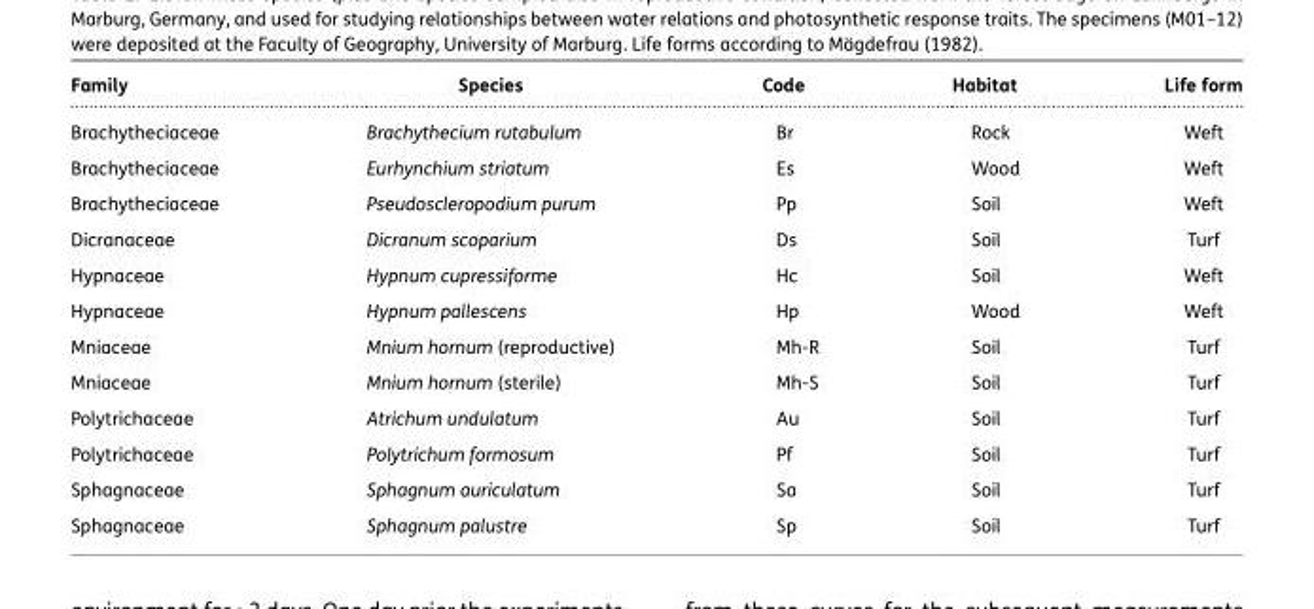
<table><thead><tr><td>Family</td><td>Species</td><td>Code</td><td>Habitat</td><td>Life form</td></tr></thead><tbody><tr><td>Brachytheciaceae</td><td>Brachythecium rutabulum</td><td>Br</td><td>Rock</td><td>Weft</td></tr><tr><td>Brachytheciaceae</td><td>Eurhynchium striatum</td><td>Es</td><td>Wood</td><td>Weft</td></tr><tr><td>Brachytheciaceae</td><td>Pseudoscleropodium purum</td><td>Pp</td><td>Soil</td><td>Weft</td></tr><tr><td>Dicranaceae</td><td>Dicranum scoparium</td><td>Ds</td><td>Soil</td><td>Turf</td></tr><tr><td>Hypnaceae</td><td>Hypnum cupressiforme</td><td>Hc</td><td>Soil</td><td>Weft</td></tr><tr><td>Hypnaceae</td><td>Hypnum pallescens</td><td>Hp</td><td>Wood</td><td>Weft</td></tr><tr><td>Mniaceae</td><td>Mnium hornum (reproductive)</td><td>Mh-R</td><td>Soil</td><td>Turf</td></tr><tr><td>Mniaceae</td><td>Mnium hornum (sterile)</td><td>Mh-S</td><td>Soil</td><td>Turf</td></tr><tr><td>Polytrichaceae</td><td>Atrichum undulatum</td><td>Au</td><td>Soil</td><td>Turf</td></tr><tr><td>Polytrichaceae</td><td>Polytrichum formosum</td><td>Pf</td><td>Soil</td><td>Turf</td></tr><tr><td>Sphagnaceae</td><td>Sphagnum auriculatum</td><td>Sa</td><td>Soil</td><td>Turf</td></tr><tr><td>Sphagnaceae</td><td>Sphagnum palustre</td><td>Sp</td><td>Soil</td><td>Turf</td></tr></tbody></table>